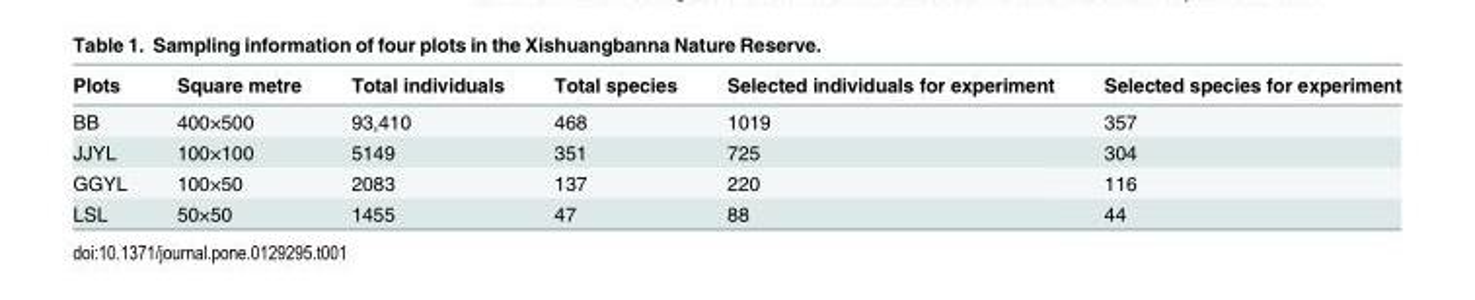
<table><thead><tr><td>Plots</td><td>Square metre</td><td>Total individuals</td><td>Total species</td><td>Selected individuals for experiment</td><td>Selected species for experiment</td></tr></thead><tbody><tr><td>BB</td><td>400×500</td><td>93,410</td><td>468</td><td>1019</td><td>357</td></tr><tr><td>JJYL</td><td>100×100</td><td>5149</td><td>351</td><td>725</td><td>304</td></tr><tr><td>GGYL</td><td>100×50</td><td>2083</td><td>137</td><td>220</td><td>116</td></tr><tr><td>LSL</td><td>50×50</td><td>1455</td><td>47</td><td>88</td><td>44</td></tr></tbody></table>